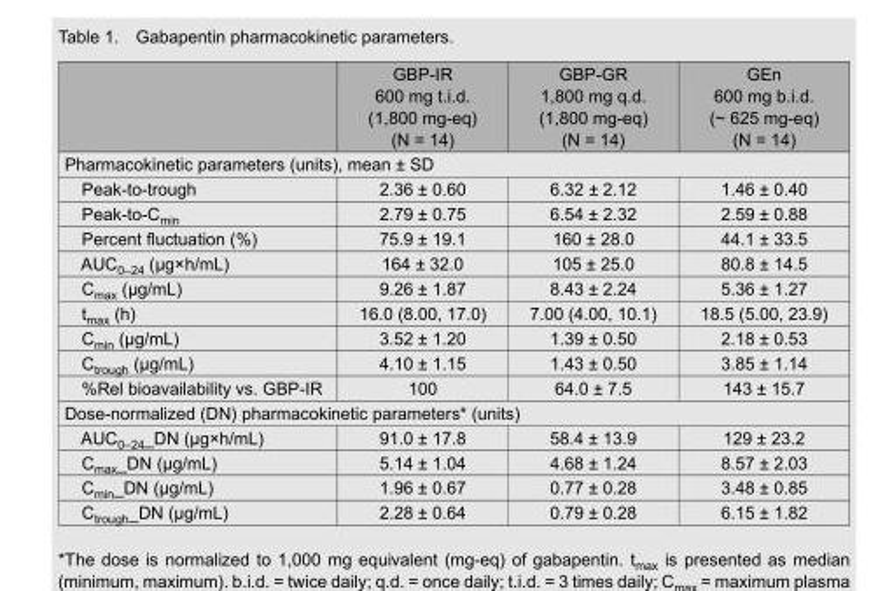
<table><thead><tr><td></td><td>GBP-IR 600 mg t.i.d. (1,800 mg-eq) (N = 14)</td><td>GBP-GR 1,800 mg q.d. (1,800 mg-eq) (N = 14)</td><td>GEn 600 mg b.i.d. (~ 625 mg-eq) (N = 14)</td></tr></thead><tbody><tr><td colspan="4">Pharmacokinetic parameters (units), mean ± SD</td></tr><tr><td>Peak-to-trough</td><td>2.36 ± 0.60</td><td>6.32 ± 2.12</td><td>1.46 ± 0.40</td></tr><tr><td>Peak-to-C<sub>min</sub></td><td>2.79 ± 0.75</td><td>6.54 ± 2.32</td><td>2.59 ± 0.88</td></tr><tr><td>Percent fluctuation (%)</td><td>75.9 ± 19.1</td><td>160 ± 28.0</td><td>44.1 ± 33.5</td></tr><tr><td>AUC<sub>0–24</sub> (µg×h/mL)</td><td>164 ± 32.0</td><td>105 ± 25.0</td><td>80.8 ± 14.5</td></tr><tr><td>C<sub>max</sub> (µg/mL)</td><td>9.26 ± 1.87</td><td>8.43 ± 2.24</td><td>5.36 ± 1.27</td></tr><tr><td>t<sub>max</sub> (h)</td><td>16.0 (8.00, 17.0)</td><td>7.00 (4.00, 10.1)</td><td>18.5 (5.00, 23.9)</td></tr><tr><td>C<sub>min</sub> (µg/mL)</td><td>3.52 ± 1.20</td><td>1.39 ± 0.50</td><td>2.18 ± 0.53</td></tr><tr><td>C<sub>trough</sub> (µg/mL)</td><td>4.10 ± 1.15</td><td>1.43 ± 0.50</td><td>3.85 ± 1.14</td></tr><tr><td>%Rel bioavailability vs. GBP-IR</td><td>100</td><td>64.0 ± 7.5</td><td>143 ± 15.7</td></tr><tr><td colspan="4">Dose-normalized (DN) pharmacokinetic parameters* (units)</td></tr><tr><td>AUC0–24_DN (µg×h/mL)</td><td>91.0 ± 17.8</td><td>58.4 ± 13.9</td><td>129 ± 23.2</td></tr><tr><td>Cmax_DN (µg/mL)</td><td>5.14 ± 1.04</td><td>4.68 ± 1.24</td><td>8.57 ± 2.03</td></tr><tr><td>Cmin_DN (µg/mL)</td><td>1.96 ± 0.67</td><td>0.77 ± 0.28</td><td>3.48 ± 0.85</td></tr><tr><td>Ctrough_DN (µg/mL)</td><td>2.28 ± 0.64</td><td>0.79 ± 0.28</td><td>6.15 ± 1.82</td></tr></tbody></table>